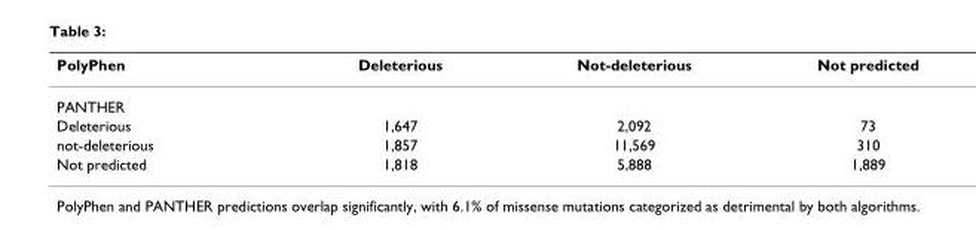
<table><thead><tr><td>PolyPhen</td><td>Deleterious</td><td>Not-deleterious</td><td>Not predicted</td></tr></thead><tbody><tr><td colspan="4">PANTHER</td></tr><tr><td>Deleterious</td><td>1,647</td><td>2,092</td><td>73</td></tr><tr><td>not-deleterious</td><td>1,857</td><td>11,569</td><td>310</td></tr><tr><td>Not predicted</td><td>1,818</td><td>5,888</td><td>1,889</td></tr></tbody></table>